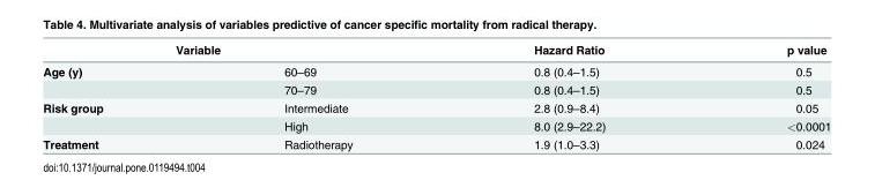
<table><thead><tr><td colspan="2">Variable</td><td rowspan="2">Hazard Ratio 0.8 (0.4–1.5)</td><td rowspan="2">p value 0.5</td></tr><tr><td>Age (y)</td><td>60–69</td></tr></thead><tbody><tr><td></td><td>70–79</td><td>0.8 (0.4–1.5)</td><td>0.5</td></tr><tr><td rowspan="2">Risk group</td><td>Intermediate</td><td>2.8 (0.9–8.4)</td><td>0.05</td></tr><tr><td>High</td><td>8.0 (2.9–22.2)</td><td>&lt;0.0001</td></tr><tr><td>Treatment</td><td>Radiotherapy</td><td>1.9 (1.0–3.3)</td><td>0.024</td></tr></tbody></table>